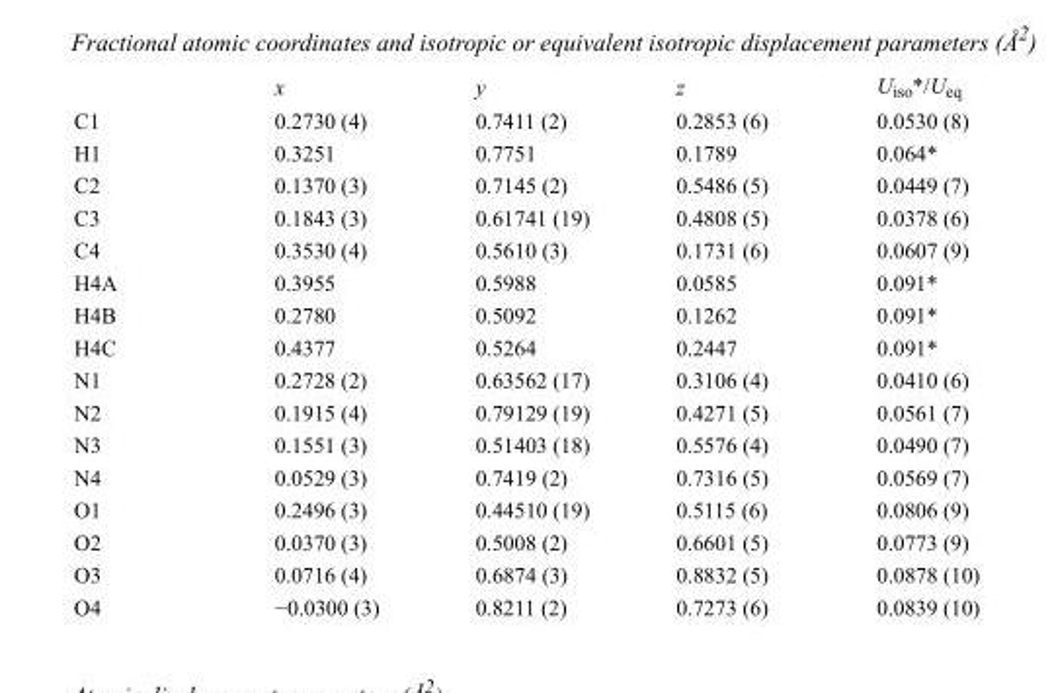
<table><thead><tr><td></td><td>x</td><td>y</td><td>z</td><td>U<sub>iso</sub>*/U<sub>eq</sub></td></tr></thead><tbody><tr><td>C1</td><td>0.2730 (4)</td><td>0.7411 (2)</td><td>0.2853 (6)</td><td>0.0530 (8)</td></tr><tr><td>H1</td><td>0.3251</td><td>0.7751</td><td>0.1789</td><td>0.064*</td></tr><tr><td>C2</td><td>0.1370 (3)</td><td>0.7145 (2)</td><td>0.5486 (5)</td><td>0.0449 (7)</td></tr><tr><td>C3</td><td>0.1843 (3)</td><td>0.61741 (19)</td><td>0.4808 (5)</td><td>0.0378 (6)</td></tr><tr><td>C4</td><td>0.3530 (4)</td><td>0.5610 (3)</td><td>0.1731 (6)</td><td>0.0607 (9)</td></tr><tr><td>H4A</td><td>0.3955</td><td>0.5988</td><td>0.0585</td><td>0.091*</td></tr><tr><td>H4B</td><td>0.2780</td><td>0.5092</td><td>0.1262</td><td>0.091*</td></tr><tr><td>H4C</td><td>0.4377</td><td>0.5264</td><td>0.2447</td><td>0.091*</td></tr><tr><td>N1</td><td>0.2728 (2)</td><td>0.63562 (17)</td><td>0.3106 (4)</td><td>0.0410 (6)</td></tr><tr><td>N2</td><td>0.1915 (4)</td><td>0.79129 (19)</td><td>0.4271 (5)</td><td>0.0561 (7)</td></tr><tr><td>N3</td><td>0.1551 (3)</td><td>0.51403 (18)</td><td>0.5576 (4)</td><td>0.0490 (7)</td></tr><tr><td>N4</td><td>0.0529 (3)</td><td>0.7419 (2)</td><td>0.7316 (5)</td><td>0.0569 (7)</td></tr><tr><td>O1</td><td>0.2496 (3)</td><td>0.44510 (19)</td><td>0.5115 (6)</td><td>0.0806 (9)</td></tr><tr><td>O2</td><td>0.0370 (3)</td><td>0.5008 (2)</td><td>0.6601 (5)</td><td>0.0773 (9)</td></tr><tr><td>O3</td><td>0.0716 (4)</td><td>0.6874 (3)</td><td>0.8832 (5)</td><td>0.0878 (10)</td></tr><tr><td>O4</td><td>−0.0300 (3)</td><td>0.8211 (2)</td><td>0.7273 (6)</td><td>0.0839 (10)</td></tr></tbody></table>